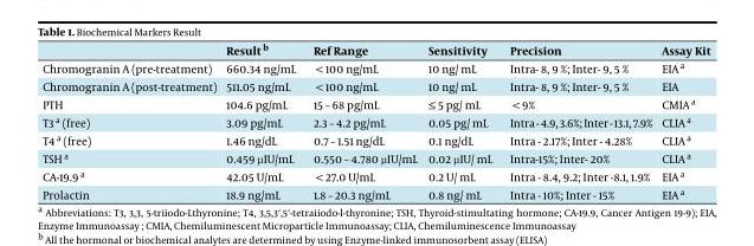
<table><thead><tr><td></td><td>Result b</td><td>Ref Range</td><td>Sensitivity</td><td>Precision</td><td>Assay Kit</td></tr></thead><tbody><tr><td>Chromogranin A (pre-treatment)</td><td>660.34 ng/mL</td><td>&lt; 100 ng/mL</td><td>10 ng/ mL</td><td>Intra- 8, 9 %; Inter- 9, 5 %</td><td>EIA a</td></tr><tr><td>Chromogranin A (post-treatment)</td><td>511.05 ng/mL</td><td>&lt; 100 ng/mL</td><td>10 ng/ mL</td><td>Intra- 8, 9 %; Inter- 9, 5 %</td><td>EIA</td></tr><tr><td>PTH</td><td>104.6 pg/mL</td><td>15 – 68 pg/mL</td><td>≤ 5 pg/ mL</td><td>&lt; 9%</td><td>CMIA a</td></tr><tr><td>T3 a (free)</td><td>3.09 pg/mL</td><td>2.3 – 4.2 pg/mL</td><td>0.05 pg/ mL</td><td>Intra - 4.9, 3.6%; Inter - 13.1, 7.9%</td><td>CLIA a</td></tr><tr><td>T4 a (free)</td><td>1.46 ng/dL</td><td>0.7 – 1.51 ng/dL</td><td>0.1 ng/dL</td><td>Intra - 2.17%; Inter - 4.28%</td><td>CLIA a</td></tr><tr><td>TSH a</td><td>0.459 μIU/mL</td><td>0.550 – 4.780 μIU/mL</td><td>0.02 μIU/ mL</td><td>Intra-15%; Inter- 20%</td><td>CLIA a</td></tr><tr><td>CA-19.9 a</td><td>42.05 U/mL</td><td>&lt; 27.0 U/mL</td><td>0.2 U/ mL</td><td>Intra - 8.4, 9.2; Inter -8.1, 1.9%</td><td>EIA a</td></tr><tr><td>Prolactin</td><td>18.9 ng/mL</td><td>1.8 – 20.3 ng/mL</td><td>0.8 ng/ mL</td><td>Intra - 10%; Inter - 15%</td><td>EIA a</td></tr></tbody></table>